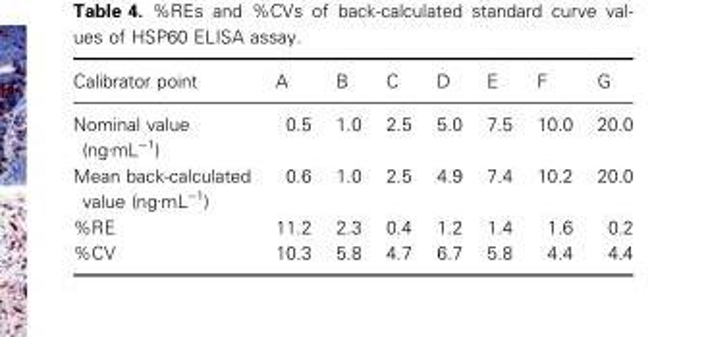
<table><thead><tr><td>Calibrator point</td><td>A</td><td>B</td><td>C</td><td>D</td><td>E</td><td>F</td><td>G</td></tr></thead><tbody><tr><td>Nominal value (ngÆmL)1)</td><td>0.5</td><td>1.0</td><td>2.5</td><td>5.0</td><td>7.5</td><td>10.0</td><td>20.0</td></tr><tr><td>Mean back-calculated value (ngÆmL)1)</td><td>0.6</td><td>1.0</td><td>2.5</td><td>4.9</td><td>7.4</td><td>10.2</td><td>20.0</td></tr><tr><td>%RE</td><td>11.2</td><td>2.3</td><td>0.4</td><td>1.2</td><td>1.4</td><td>1.6</td><td>0.2</td></tr><tr><td>%CV</td><td>10.3</td><td>5.8</td><td>4.7</td><td>6.7</td><td>5.8</td><td>4.4</td><td>4.4</td></tr></tbody></table>